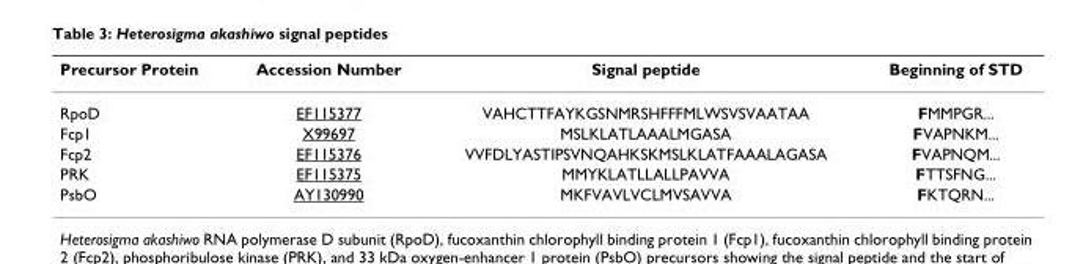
<table><thead><tr><td>Precursor Protein</td><td>Accession Number</td><td>Signal peptide</td><td>Beginning of STD</td></tr></thead><tbody><tr><td>RpoD</td><td>EF115377</td><td>VAHCTTFAYKGSNMRSHFFFMLWSVSVAATAA</td><td>FMMPGR...</td></tr><tr><td>Fcp1</td><td>X99697</td><td>MSLKLATLAAALMGASA</td><td>FVAPNKM...</td></tr><tr><td>Fcp2</td><td>EF115376</td><td>VVFDLYASTIPSVNQAHKSKMSLKLATFAAALAGASA</td><td>FVAPNQM...</td></tr><tr><td>PRK</td><td>EF115375</td><td>MMYKLATLLALLPAVVA</td><td>FTTSFNG...</td></tr><tr><td>PsbO</td><td>AY130990</td><td>MKFVAVLVCLMVSAVVA</td><td>FKTQRN...</td></tr></tbody></table>